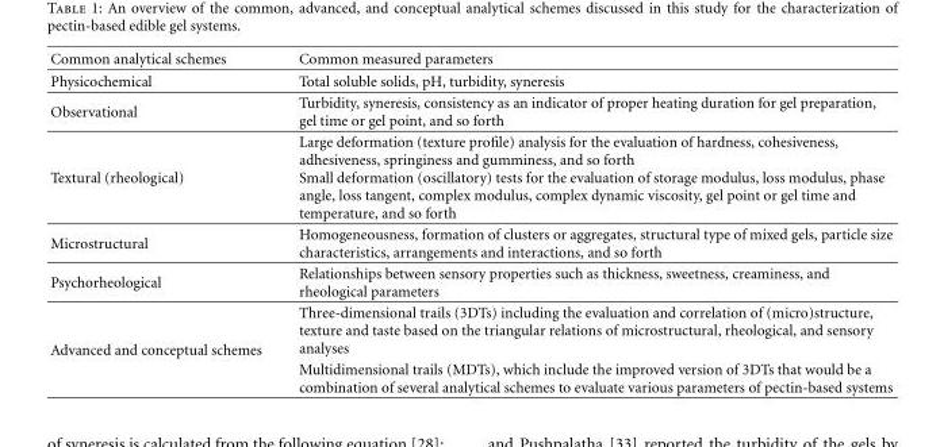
<table><thead><tr><td>Common analytical schemes</td><td>Common measured parameters</td></tr></thead><tbody><tr><td>Physicochemical</td><td>Total soluble solids, pH, turbidity, syneresis</td></tr><tr><td>Observational</td><td>Turbidity, syneresis, consistency as an indicator of proper heating duration for gel preparation, gel time or gel point, and so forth</td></tr><tr><td>Textural (rheological)</td><td>Large deformation (texture profile) analysis for the evaluation of hardness, cohesiveness, adhesiveness, springiness and gumminess, and so forth Small deformation (oscillatory) tests for the evaluation of storage modulus, loss modulus, phase angle, loss tangent, complex modulus, complex dynamic viscosity, gel point or gel time and temperature, and so forth</td></tr><tr><td>Microstructural</td><td>Homogeneousness, formation of clusters or aggregates, structural type of mixed gels, particle size characteristics, arrangements and interactions, and so forth</td></tr><tr><td>Psychorheological</td><td>Relationships between sensory properties such as thickness, sweetness, creaminess, and rheological parameters</td></tr><tr><td rowspan="2">Advanced and conceptual schemes</td><td>Three-dimensional trails (3DTs) including the evaluation and correlation of (micro)structure, texture and taste based on the triangular relations of microstructural, rheological, and sensory analyses</td></tr><tr><td>Multidimensional trails (MDTs), which include the improved version of 3DTs that would be a combination of several analytical schemes to evaluate various parameters of pectin-based systems</td></tr></tbody></table>